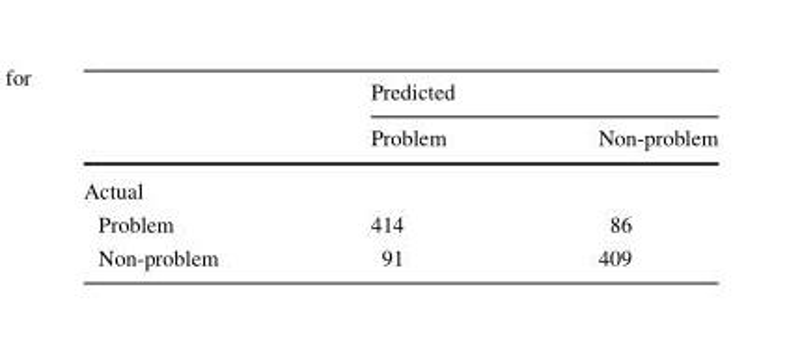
<table><thead><tr><td rowspan="2"></td><td colspan="2">Predicted</td></tr><tr><td>Problem</td><td>Non-problem</td></tr></thead><tbody><tr><td colspan="3">Actual</td></tr><tr><td>Problem</td><td>414</td><td>86</td></tr><tr><td>Non-problem</td><td>91</td><td>409</td></tr></tbody></table>